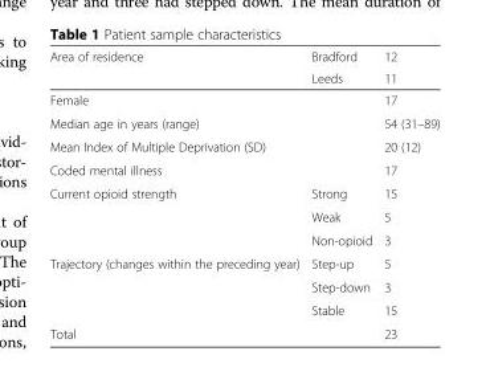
<table><thead><tr><td rowspan="2">Area of residence</td><td rowspan="2">Bradford Leeds</td><td rowspan="2">12 11</td></tr><tr></tr></thead><tbody><tr><td>Female</td><td></td><td>17</td></tr><tr><td>Median age in years (range)</td><td></td><td>54 (31–89)</td></tr><tr><td>Mean Index of Multiple Deprivation (SD)</td><td></td><td>20 (12)</td></tr><tr><td>Coded mental illness</td><td></td><td>17</td></tr><tr><td rowspan="3">Current opioid strength</td><td>Strong</td><td>15</td></tr><tr><td>Weak</td><td>5</td></tr><tr><td>Non-opioid</td><td>3</td></tr><tr><td rowspan="3">Trajectory (changes within the preceding year)</td><td>Step-up</td><td>5</td></tr><tr><td>Step-down</td><td>3</td></tr><tr><td>Stable</td><td>15</td></tr><tr><td>Total</td><td></td><td>23</td></tr></tbody></table>